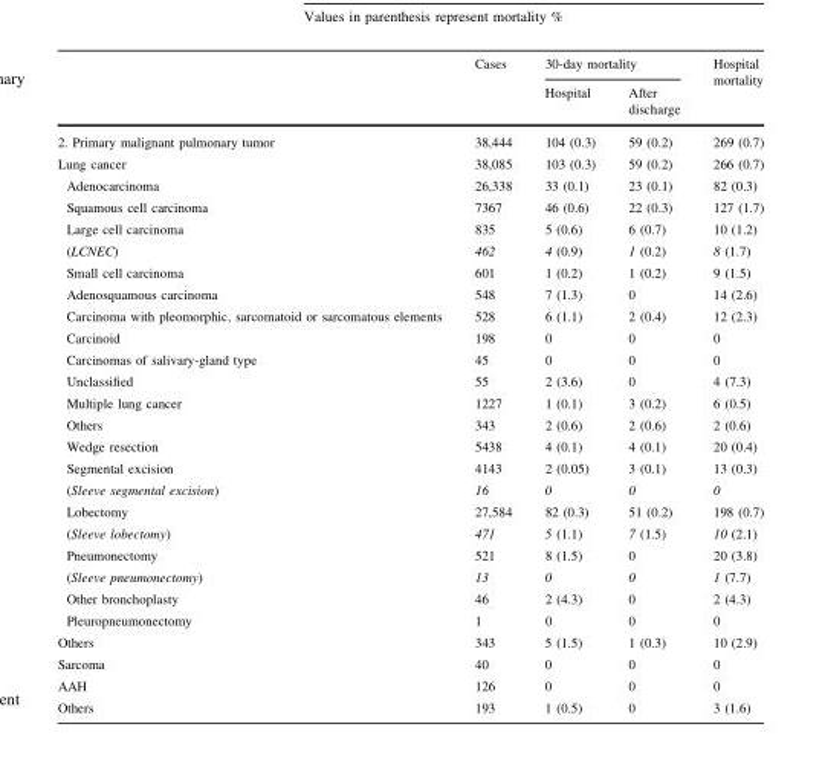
<table><thead><tr><td rowspan="2"></td><td rowspan="2">Cases</td><td colspan="2">30-day mortality</td><td rowspan="2">Hospital mortality</td></tr><tr><td>Hospital</td><td>After discharge</td></tr></thead><tbody><tr><td>2. Primary malignant pulmonary tumor</td><td>38,444</td><td>104 (0.3)</td><td>59 (0.2)</td><td>269 (0.7)</td></tr><tr><td>Lung cancer</td><td>38,085</td><td>103 (0.3)</td><td>59 (0.2)</td><td>266 (0.7)</td></tr><tr><td>Adenocarcinoma</td><td>26,338</td><td>33 (0.1)</td><td>23 (0.1)</td><td>82 (0.3)</td></tr><tr><td>Squamous cell carcinoma</td><td>7367</td><td>46 (0.6)</td><td>22 (0.3)</td><td>127 (1.7)</td></tr><tr><td>Large cell carcinoma</td><td>835</td><td>5 (0.6)</td><td>6 (0.7)</td><td>10 (1.2)</td></tr><tr><td>(LCNEC)</td><td>462</td><td>4 (0.9)</td><td>1 (0.2)</td><td>8 (1.7)</td></tr><tr><td>Small cell carcinoma</td><td>601</td><td>1 (0.2)</td><td>1 (0.2)</td><td>9 (1.5)</td></tr><tr><td>Adenosquamous carcinoma</td><td>548</td><td>7 (1.3)</td><td>0</td><td>14 (2.6)</td></tr><tr><td>Carcinoma with pleomorphic, sarcomatoid or sarcomatous elements</td><td>528</td><td>6 (1.1)</td><td>2 (0.4)</td><td>12 (2.3)</td></tr><tr><td>Carcinoid</td><td>198</td><td>0</td><td>0</td><td>0</td></tr><tr><td>Carcinomas of salivary-gland type</td><td>45</td><td>0</td><td>0</td><td>0</td></tr><tr><td>Unclassified</td><td>55</td><td>2 (3.6)</td><td>0</td><td>4 (7.3)</td></tr><tr><td>Multiple lung cancer</td><td>1227</td><td>1 (0.1)</td><td>3 (0.2)</td><td>6 (0.5)</td></tr><tr><td>Others</td><td>343</td><td>2 (0.6)</td><td>2 (0.6)</td><td>2 (0.6)</td></tr><tr><td>Wedge resection</td><td>5438</td><td>4 (0.1)</td><td>4 (0.1)</td><td>20 (0.4)</td></tr><tr><td>Segmental excision</td><td>4143</td><td>2 (0.05)</td><td>3 (0.1)</td><td>13 (0.3)</td></tr><tr><td>(Sleeve segmental excision)</td><td>16</td><td>0</td><td>0</td><td>0</td></tr><tr><td>Lobectomy</td><td>27,584</td><td>82 (0.3)</td><td>51 (0.2)</td><td>198 (0.7)</td></tr><tr><td>(Sleeve lobectomy)</td><td>471</td><td>5 (1.1)</td><td>7 (1.5)</td><td>10 (2.1)</td></tr><tr><td>Pneumonectomy</td><td>521</td><td>8 (1.5)</td><td>0</td><td>20 (3.8)</td></tr><tr><td>(Sleeve pneumonectomy)</td><td>13</td><td>0</td><td>0</td><td>1 (7.7)</td></tr><tr><td>Other bronchoplasty</td><td>46</td><td>2 (4.3)</td><td>0</td><td>2 (4.3)</td></tr><tr><td>Pleuropneumonectomy</td><td>1</td><td>0</td><td>0</td><td>0</td></tr><tr><td>Others</td><td>343</td><td>5 (1.5)</td><td>1 (0.3)</td><td>10 (2.9)</td></tr><tr><td>Sarcoma</td><td>40</td><td>0</td><td>0</td><td>0</td></tr><tr><td>AAH</td><td>126</td><td>0</td><td>0</td><td>0</td></tr><tr><td>Others</td><td>193</td><td>1 (0.5)</td><td>0</td><td>3 (1.6)</td></tr></tbody></table>